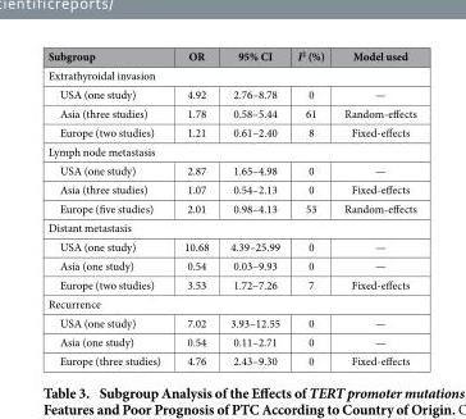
<table><thead><tr><td>Subgroup</td><td>OR</td><td>95% CI</td><td>I<sup>2</sup> (%)</td><td>Model used</td></tr></thead><tbody><tr><td colspan="5">Extrathyroidal invasion</td></tr><tr><td>USA (one study)</td><td>4.92</td><td>2.76–8.78</td><td>0</td><td>—</td></tr><tr><td>Asia (three studies)</td><td>1.78</td><td>0.58–5.44</td><td>61</td><td>Random-effects</td></tr><tr><td>Europe (two studies)</td><td>1.21</td><td>0.61–2.40</td><td>8</td><td>Fixed-effects</td></tr><tr><td colspan="5">Lymph node metastasis</td></tr><tr><td>USA (one study)</td><td>2.87</td><td>1.65–4.98</td><td>0</td><td>—</td></tr><tr><td>Asia (three studies)</td><td>1.07</td><td>0.54–2.13</td><td>0</td><td>Fixed-effects</td></tr><tr><td>Europe (five studies)</td><td>2.01</td><td>0.98–4.13</td><td>53</td><td>Random-effects</td></tr><tr><td colspan="5">Distant metastasis</td></tr><tr><td>USA (one study)</td><td>10.68</td><td>4.39–25.99</td><td>0</td><td>—</td></tr><tr><td>Asia (one study)</td><td>0.54</td><td>0.03–9.93</td><td>0</td><td>—</td></tr><tr><td>Europe (two studies)</td><td>3.53</td><td>1.72–7.26</td><td>7</td><td>Fixed-effects</td></tr><tr><td colspan="5">Recurrence</td></tr><tr><td>USA (one study)</td><td>7.02</td><td>3.93–12.55</td><td>0</td><td>—</td></tr><tr><td>Asia (one study)</td><td>0.54</td><td>0.11–2.71</td><td>0</td><td>—</td></tr><tr><td>Europe (three studies)</td><td>4.76</td><td>2.43–9.30</td><td>0</td><td>Fixed-effects</td></tr></tbody></table>